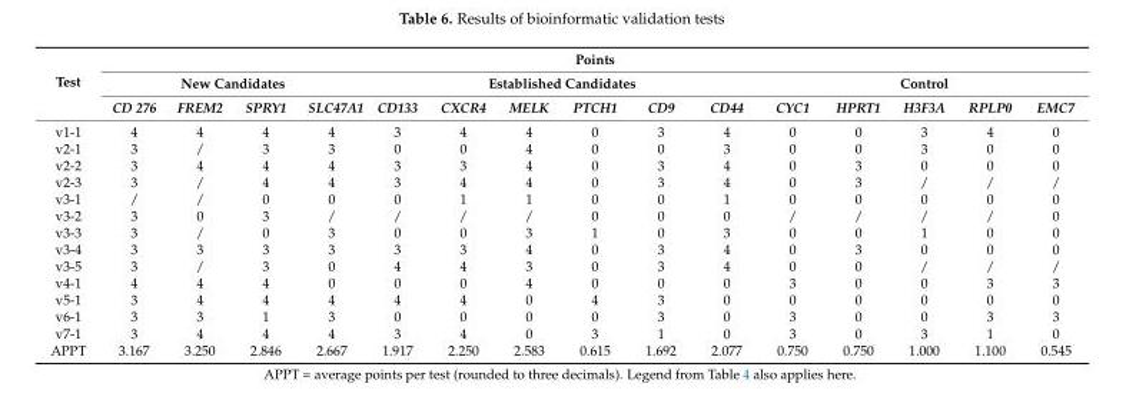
<table><thead><tr><td rowspan="3">Test</td><td colspan="15">Points</td></tr><tr><td colspan="4">New Candidates</td><td colspan="6">Established Candidates</td><td colspan="5">Control</td></tr><tr><td>CD 276</td><td>FREM2</td><td>SPRY1</td><td>SLC47A1</td><td>CD133</td><td>CXCR4</td><td>MELK</td><td>PTCH1</td><td>CD9</td><td>CD44</td><td>CYC1</td><td>HPRT1</td><td>H3F3A</td><td>RPLP0</td><td>EMC7</td></tr></thead><tbody><tr><td>v1-1</td><td>4</td><td>4</td><td>4</td><td>4</td><td>3</td><td>4</td><td>4</td><td>0</td><td>3</td><td>4</td><td>0</td><td>0</td><td>3</td><td>4</td><td>0</td></tr><tr><td>v2-1</td><td>3</td><td>/</td><td>3</td><td>3</td><td>0</td><td>0</td><td>4</td><td>0</td><td>0</td><td>3</td><td>0</td><td>0</td><td>3</td><td>0</td><td>0</td></tr><tr><td>v2-2</td><td>3</td><td>4</td><td>4</td><td>4</td><td>3</td><td>3</td><td>4</td><td>0</td><td>3</td><td>4</td><td>0</td><td>3</td><td>0</td><td>0</td><td>0</td></tr><tr><td>v2-3</td><td>3</td><td>/</td><td>4</td><td>4</td><td>3</td><td>4</td><td>4</td><td>0</td><td>3</td><td>4</td><td>0</td><td>3</td><td>/</td><td>/</td><td>/</td></tr><tr><td>v3-1</td><td>/</td><td>/</td><td>0</td><td>0</td><td>0</td><td>1</td><td>1</td><td>0</td><td>0</td><td>1</td><td>0</td><td>0</td><td>0</td><td>0</td><td>0</td></tr><tr><td>v3-2</td><td>3</td><td>0</td><td>3</td><td>/</td><td>/</td><td>/</td><td>/</td><td>0</td><td>0</td><td>0</td><td>/</td><td>/</td><td>/</td><td>/</td><td>0</td></tr><tr><td>v3-3</td><td>3</td><td>/</td><td>0</td><td>3</td><td>0</td><td>0</td><td>3</td><td>1</td><td>0</td><td>3</td><td>0</td><td>0</td><td>1</td><td>0</td><td>0</td></tr><tr><td>v3-4</td><td>3</td><td>3</td><td>3</td><td>3</td><td>3</td><td>3</td><td>4</td><td>0</td><td>3</td><td>4</td><td>0</td><td>3</td><td>0</td><td>0</td><td>0</td></tr><tr><td>v3-5</td><td>3</td><td>/</td><td>3</td><td>0</td><td>4</td><td>4</td><td>3</td><td>0</td><td>3</td><td>4</td><td>0</td><td>0</td><td>/</td><td>/</td><td>/</td></tr><tr><td>v4-1</td><td>4</td><td>4</td><td>4</td><td>0</td><td>0</td><td>0</td><td>4</td><td>0</td><td>0</td><td>0</td><td>3</td><td>0</td><td>0</td><td>3</td><td>3</td></tr><tr><td>v5-1</td><td>3</td><td>4</td><td>4</td><td>4</td><td>4</td><td>4</td><td>0</td><td>4</td><td>3</td><td>0</td><td>0</td><td>0</td><td>0</td><td>0</td><td>0</td></tr><tr><td>v6-1</td><td>3</td><td>3</td><td>1</td><td>3</td><td>0</td><td>0</td><td>0</td><td>0</td><td>3</td><td>0</td><td>3</td><td>0</td><td>0</td><td>3</td><td>3</td></tr><tr><td>v7-1</td><td>3</td><td>4</td><td>4</td><td>4</td><td>3</td><td>4</td><td>0</td><td>3</td><td>1</td><td>0</td><td>3</td><td>0</td><td>3</td><td>1</td><td>0</td></tr><tr><td>APPT</td><td>3.167</td><td>3.250</td><td>2.846</td><td>2.667</td><td>1.917</td><td>2.250</td><td>2.583</td><td>0.615</td><td>1.692</td><td>2.077</td><td>0.750</td><td>0.750</td><td>1.000</td><td>1.100</td><td>0.545</td></tr></tbody></table>